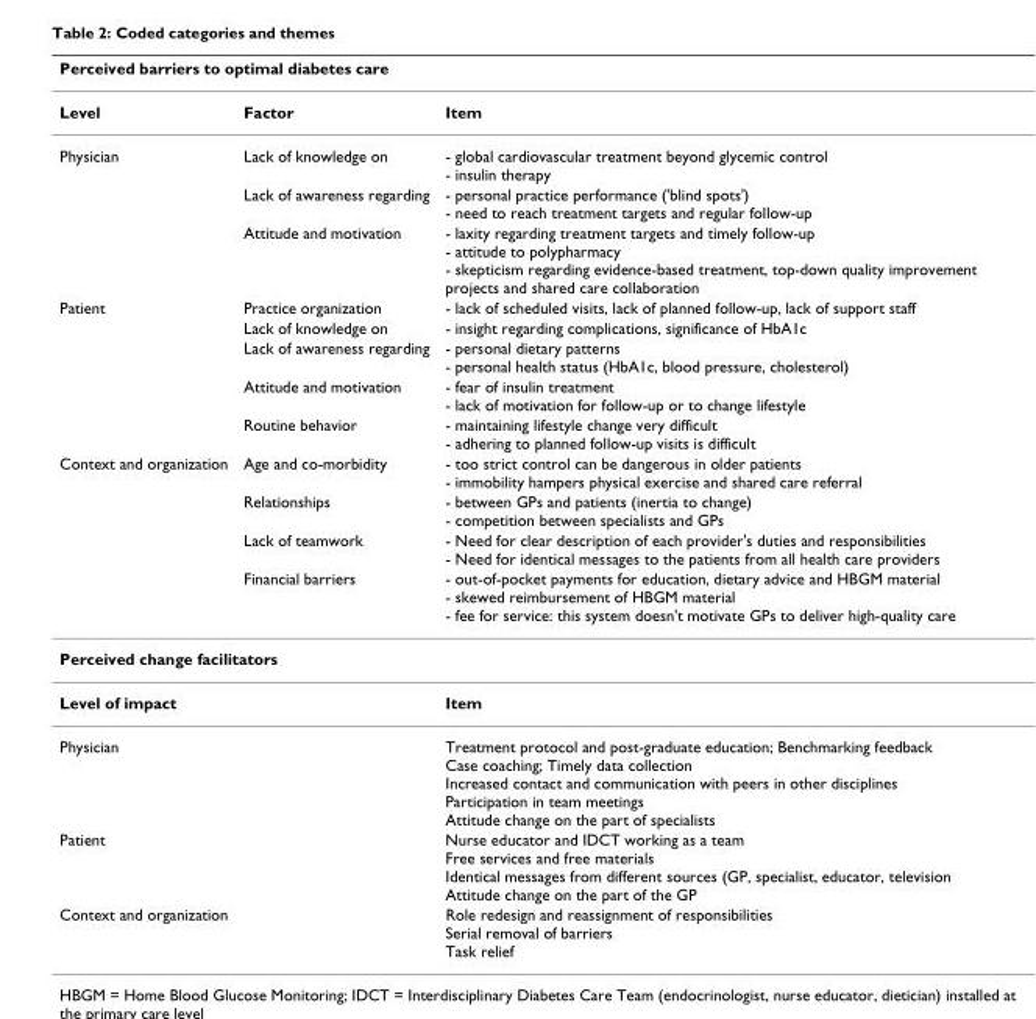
<table><thead><tr><td colspan="3">Perceived barriers to optimal diabetes care</td></tr><tr><td>Level</td><td>Factor</td><td>Item</td></tr></thead><tbody><tr><td rowspan="3">Physician</td><td>Lack of knowledge on</td><td>- global cardiovascular treatment beyond glycemic control - insulin therapy</td></tr><tr><td>Lack of awareness regarding</td><td>- personal practice performance (&#x27;blind spots&#x27;) - need to reach treatment targets and regular follow-up</td></tr><tr><td>Attitude and motivation</td><td>- laxity regarding treatment targets and timely follow-up - attitude to polypharmacy - skepticism regarding evidence-based treatment, top-down quality improvement projects and shared care collaboration</td></tr><tr><td rowspan="5">Patient</td><td>Practice organization</td><td>- lack of scheduled visits, lack of planned follow-up, lack of support staff</td></tr><tr><td>Lack of knowledge on</td><td>- insight regarding complications, significance of HbA1c</td></tr><tr><td>Lack of awareness regarding</td><td>- personal dietary patterns - personal health status (HbA1c, blood pressure, cholesterol)</td></tr><tr><td>Attitude and motivation</td><td>- fear of insulin treatment - lack of motivation for follow-up or to change lifestyle</td></tr><tr><td>Routine behavior</td><td>- maintaining lifestyle change very difficult - adhering to planned follow-up visits is difficult</td></tr><tr><td rowspan="4">Context and organization</td><td>Age and co-morbidity</td><td>- too strict control can be dangerous in older patients - immobility hampers physical exercise and shared care referral</td></tr><tr><td>Relationships</td><td>- between GPs and patients (inertia to change) - competition between specialists and GPs</td></tr><tr><td>Lack of teamwork</td><td>- Need for clear description of each provider&#x27;s duties and responsibilities - Need for identical messages to the patients from all health care providers</td></tr><tr><td>Financial barriers</td><td>- out-of-pocket payments for education, dietary advice and HBGM material - skewed reimbursement of HBGM material - fee for service: this system doesn&#x27;t motivate GPs to deliver high-quality care</td></tr><tr><td colspan="3">Perceived change facilitators</td></tr><tr><td>Level of impact</td><td></td><td>Item</td></tr><tr><td>Physician</td><td></td><td>Treatment protocol and post-graduate education; Benchmarking feedback Case coaching; Timely data collection Increased contact and communication with peers in other disciplines Participation in team meetings Attitude change on the part of specialists</td></tr><tr><td>Patient</td><td></td><td>Nurse educator and IDCT working as a team Free services and free materials Identical messages from different sources (GP, specialist, educator, television Attitude change on the part of the GP</td></tr><tr><td colspan="2">Context and organization</td><td>Role redesign and reassignment of responsibilities Serial removal of barriers Task relief</td></tr></tbody></table>